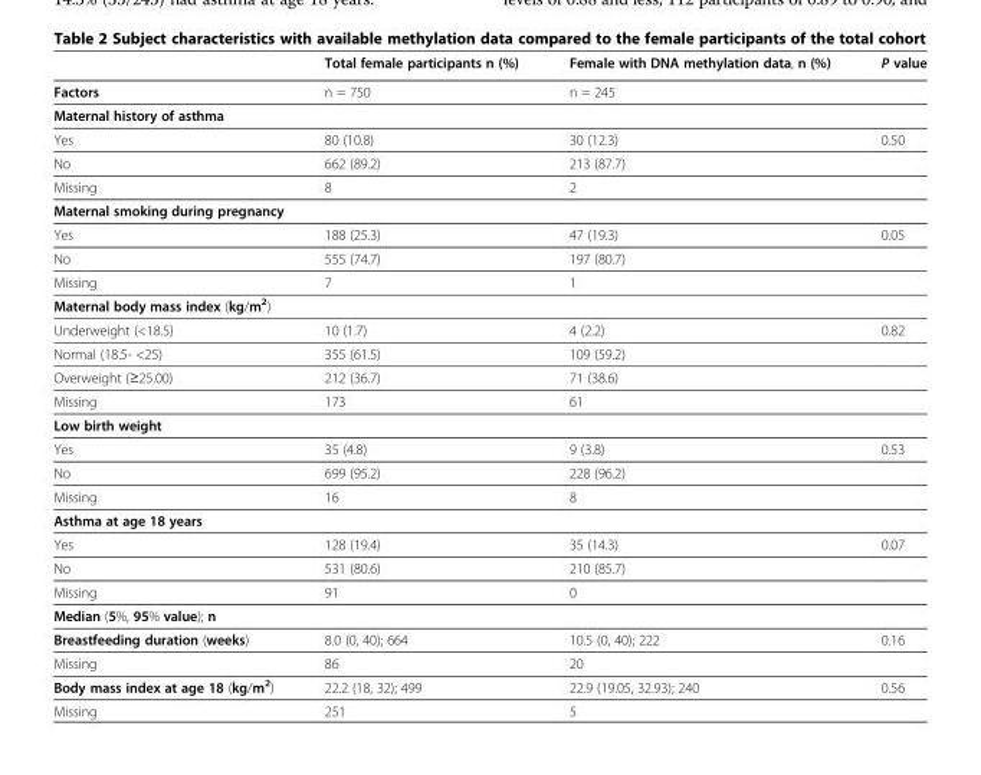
<table><thead><tr><td></td><td>Total female participants n (%)</td><td>Female with DNA methylation data, n (%)</td><td>P value</td></tr></thead><tbody><tr><td>Factors</td><td>n = 750</td><td>n = 245</td><td></td></tr><tr><td colspan="4">Maternal history of asthma</td></tr><tr><td>Yes</td><td>80 (10.8)</td><td>30 (12.3)</td><td>0.50</td></tr><tr><td>No</td><td>662 (89.2)</td><td>213 (87.7)</td><td></td></tr><tr><td>Missing</td><td>8</td><td>2</td><td></td></tr><tr><td colspan="4">Maternal smoking during pregnancy</td></tr><tr><td>Yes</td><td>188 (25.3)</td><td>47 (19.3)</td><td>0.05</td></tr><tr><td>No</td><td>555 (74.7)</td><td>197 (80.7)</td><td></td></tr><tr><td>Missing</td><td>7</td><td>1</td><td></td></tr><tr><td colspan="4">Maternal body mass index (kg/m<sup>2</sup>)</td></tr><tr><td>Underweight (&lt;18.5)</td><td>10 (1.7)</td><td>4 (2.2)</td><td>0.82</td></tr><tr><td>Normal (18.5- &lt;25)</td><td>355 (61.5)</td><td>109 (59.2)</td><td></td></tr><tr><td>Overweight (≥25.00)</td><td>212 (36.7)</td><td>71 (38.6)</td><td></td></tr><tr><td>Missing</td><td>173</td><td>61</td><td></td></tr><tr><td colspan="4">Low birth weight</td></tr><tr><td>Yes</td><td>35 (4.8)</td><td>9 (3.8)</td><td>0.53</td></tr><tr><td>No</td><td>699 (95.2)</td><td>228 (96.2)</td><td></td></tr><tr><td>Missing</td><td>16</td><td>8</td><td></td></tr><tr><td colspan="4">Asthma at age 18 years</td></tr><tr><td>Yes</td><td>128 (19.4)</td><td>35 (14.3)</td><td>0.07</td></tr><tr><td>No</td><td>531 (80.6)</td><td>210 (85.7)</td><td></td></tr><tr><td>Missing</td><td>91</td><td>0</td><td></td></tr><tr><td colspan="4">Median (5%, 95% value); n</td></tr><tr><td>Breastfeeding duration (weeks)</td><td>8.0 (0, 40); 664</td><td>10.5 (0, 40); 222</td><td>0.16</td></tr><tr><td>Missing</td><td>86</td><td>20</td><td></td></tr><tr><td>Body mass index at age 18 (kg/m<sup>2</sup>)</td><td>22.2 (18, 32); 499</td><td>22.9 (19.05, 32.93); 240</td><td>0.56</td></tr><tr><td>Missing</td><td>251</td><td>5</td><td></td></tr></tbody></table>